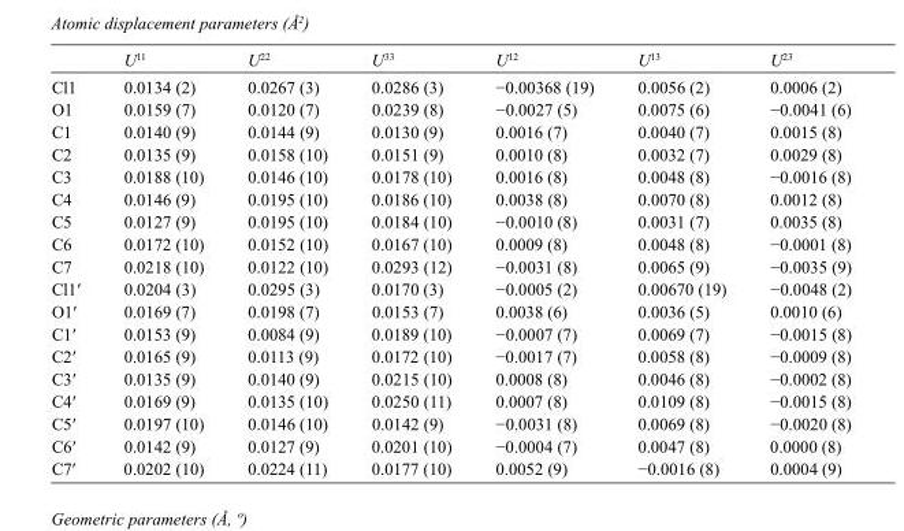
<table><thead><tr><td></td><td>U<sup>11</sup></td><td>U<sup>22</sup></td><td>U<sup>33</sup></td><td>U<sup>12</sup></td><td>U<sup>13</sup></td><td>U<sup>23</sup></td></tr></thead><tbody><tr><td>Cl1</td><td>0.0134 (2)</td><td>0.0267 (3)</td><td>0.0286 (3)</td><td>−0.00368 (19)</td><td>0.0056 (2)</td><td>0.0006 (2)</td></tr><tr><td>O1</td><td>0.0159 (7)</td><td>0.0120 (7)</td><td>0.0239 (8)</td><td>−0.0027 (5)</td><td>0.0075 (6)</td><td>−0.0041 (6)</td></tr><tr><td>C1</td><td>0.0140 (9)</td><td>0.0144 (9)</td><td>0.0130 (9)</td><td>0.0016 (7)</td><td>0.0040 (7)</td><td>0.0015 (8)</td></tr><tr><td>C2</td><td>0.0135 (9)</td><td>0.0158 (10)</td><td>0.0151 (9)</td><td>0.0010 (8)</td><td>0.0032 (7)</td><td>0.0029 (8)</td></tr><tr><td>C3</td><td>0.0188 (10)</td><td>0.0146 (10)</td><td>0.0178 (10)</td><td>0.0016 (8)</td><td>0.0048 (8)</td><td>−0.0016 (8)</td></tr><tr><td>C4</td><td>0.0146 (9)</td><td>0.0195 (10)</td><td>0.0186 (10)</td><td>0.0038 (8)</td><td>0.0070 (8)</td><td>0.0012 (8)</td></tr><tr><td>C5</td><td>0.0127 (9)</td><td>0.0195 (10)</td><td>0.0184 (10)</td><td>−0.0010 (8)</td><td>0.0031 (7)</td><td>0.0035 (8)</td></tr><tr><td>C6</td><td>0.0172 (10)</td><td>0.0152 (10)</td><td>0.0167 (10)</td><td>0.0009 (8)</td><td>0.0048 (8)</td><td>−0.0001 (8)</td></tr><tr><td>C7</td><td>0.0218 (10)</td><td>0.0122 (10)</td><td>0.0293 (12)</td><td>−0.0031 (8)</td><td>0.0065 (9)</td><td>−0.0035 (9)</td></tr><tr><td>Cl1′</td><td>0.0204 (3)</td><td>0.0295 (3)</td><td>0.0170 (3)</td><td>−0.0005 (2)</td><td>0.00670 (19)</td><td>−0.0048 (2)</td></tr><tr><td>O1′</td><td>0.0169 (7)</td><td>0.0198 (7)</td><td>0.0153 (7)</td><td>0.0038 (6)</td><td>0.0036 (5)</td><td>0.0010 (6)</td></tr><tr><td>C1′</td><td>0.0153 (9)</td><td>0.0084 (9)</td><td>0.0189 (10)</td><td>−0.0007 (7)</td><td>0.0069 (7)</td><td>−0.0015 (8)</td></tr><tr><td>C2′</td><td>0.0165 (9)</td><td>0.0113 (9)</td><td>0.0172 (10)</td><td>−0.0017 (7)</td><td>0.0058 (8)</td><td>−0.0009 (8)</td></tr><tr><td>C3′</td><td>0.0135 (9)</td><td>0.0140 (9)</td><td>0.0215 (10)</td><td>0.0008 (8)</td><td>0.0046 (8)</td><td>−0.0002 (8)</td></tr><tr><td>C4′</td><td>0.0169 (9)</td><td>0.0135 (10)</td><td>0.0250 (11)</td><td>0.0007 (8)</td><td>0.0109 (8)</td><td>−0.0015 (8)</td></tr><tr><td>C5′</td><td>0.0197 (10)</td><td>0.0146 (10)</td><td>0.0142 (9)</td><td>−0.0031 (8)</td><td>0.0069 (8)</td><td>−0.0020 (8)</td></tr><tr><td>C6′</td><td>0.0142 (9)</td><td>0.0127 (9)</td><td>0.0201 (10)</td><td>−0.0004 (7)</td><td>0.0047 (8)</td><td>0.0000 (8)</td></tr><tr><td>C7′</td><td>0.0202 (10)</td><td>0.0224 (11)</td><td>0.0177 (10)</td><td>0.0052 (9)</td><td>−0.0016 (8)</td><td>0.0004 (9)</td></tr></tbody></table>